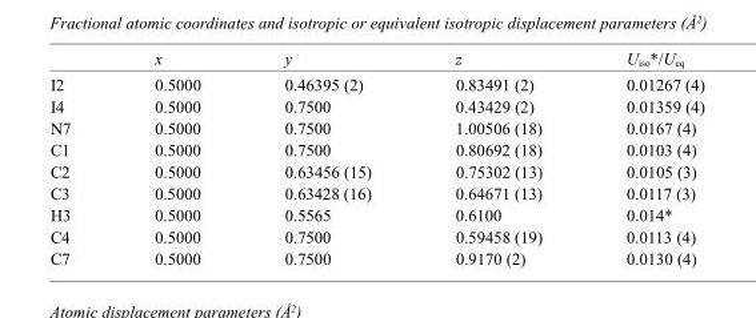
<table><thead><tr><td></td><td>x</td><td>y</td><td>z</td><td>U<sub>iso</sub>*/U<sub>eq</sub></td></tr></thead><tbody><tr><td>I2</td><td>0.5000</td><td>0.46395 (2)</td><td>0.83491 (2)</td><td>0.01267 (4)</td></tr><tr><td>I4</td><td>0.5000</td><td>0.7500</td><td>0.43429 (2)</td><td>0.01359 (4)</td></tr><tr><td>N7</td><td>0.5000</td><td>0.7500</td><td>1.00506 (18)</td><td>0.0167 (4)</td></tr><tr><td>C1</td><td>0.5000</td><td>0.7500</td><td>0.80692 (18)</td><td>0.0103 (4)</td></tr><tr><td>C2</td><td>0.5000</td><td>0.63456 (15)</td><td>0.75302 (13)</td><td>0.0105 (3)</td></tr><tr><td>C3</td><td>0.5000</td><td>0.63428 (16)</td><td>0.64671 (13)</td><td>0.0117 (3)</td></tr><tr><td>H3</td><td>0.5000</td><td>0.5565</td><td>0.6100</td><td>0.014*</td></tr><tr><td>C4</td><td>0.5000</td><td>0.7500</td><td>0.59458 (19)</td><td>0.0113 (4)</td></tr><tr><td>C7</td><td>0.5000</td><td>0.7500</td><td>0.9170 (2)</td><td>0.0130 (4)</td></tr></tbody></table>